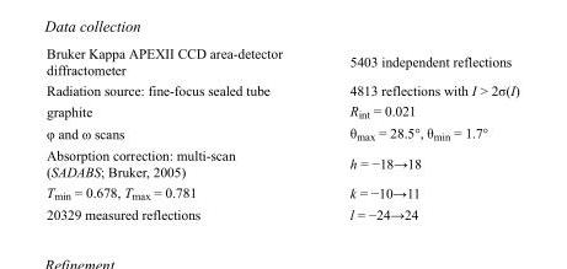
<table><tbody><tr><td>Bruker Kappa APEXII CCD area-detector diffractometer</td><td>5403 independent reflections</td></tr><tr><td>Radiation source: fine-focus sealed tube</td><td>4813 reflections with I &gt; 2σ(I)</td></tr><tr><td>graphite</td><td>R<sub>int</sub> = 0.021</td></tr><tr><td>φ and ω scans</td><td>θ<sub>max</sub> = 28.5°, θ<sub>min</sub> = 1.7°</td></tr><tr><td>Absorption correction: multi-scan (SADABS; Bruker, 2005)</td><td>h = −18→18</td></tr><tr><td>T<sub>min</sub> = 0.678, T<sub>max</sub> = 0.781</td><td>k = −10→11</td></tr><tr><td>20329 measured reflections</td><td>l = −24→24</td></tr></tbody></table>